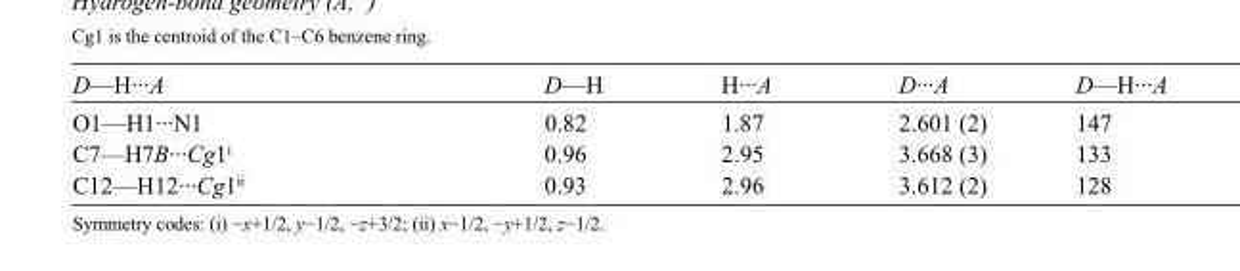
<table><tbody><tr><td>D—H···A</td><td>D—H</td><td>H···A</td><td>D···A</td><td>D—H···A</td></tr><tr><td>O1—H1···N1</td><td>0.82</td><td>1.87</td><td>2.601 (2)</td><td>147</td></tr><tr><td>C7—H7B···Cg1<sup>i</sup></td><td>0.96</td><td>2.95</td><td>3.668 (3)</td><td>133</td></tr><tr><td>C12—H12···Cg1<sup>ii</sup></td><td>0.93</td><td>2.96</td><td>3.612 (2)</td><td>128</td></tr></tbody></table>